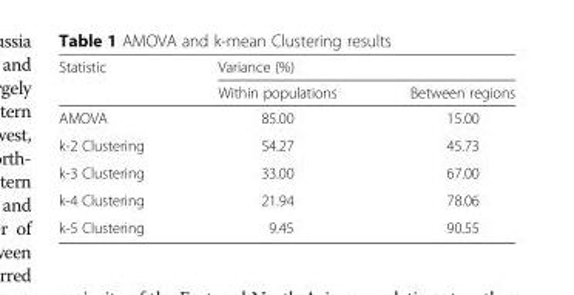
<table><thead><tr><td rowspan="2">Statistic</td><td colspan="2">Variance (%)</td></tr><tr><td>Within populations</td><td>Between regions</td></tr></thead><tbody><tr><td>AMOVA</td><td>85.00</td><td>15.00</td></tr><tr><td>k-2 Clustering</td><td>54.27</td><td>45.73</td></tr><tr><td>k-3 Clustering</td><td>33.00</td><td>67.00</td></tr><tr><td>k-4 Clustering</td><td>21.94</td><td>78.06</td></tr><tr><td>k-5 Clustering</td><td>9.45</td><td>90.55</td></tr></tbody></table>